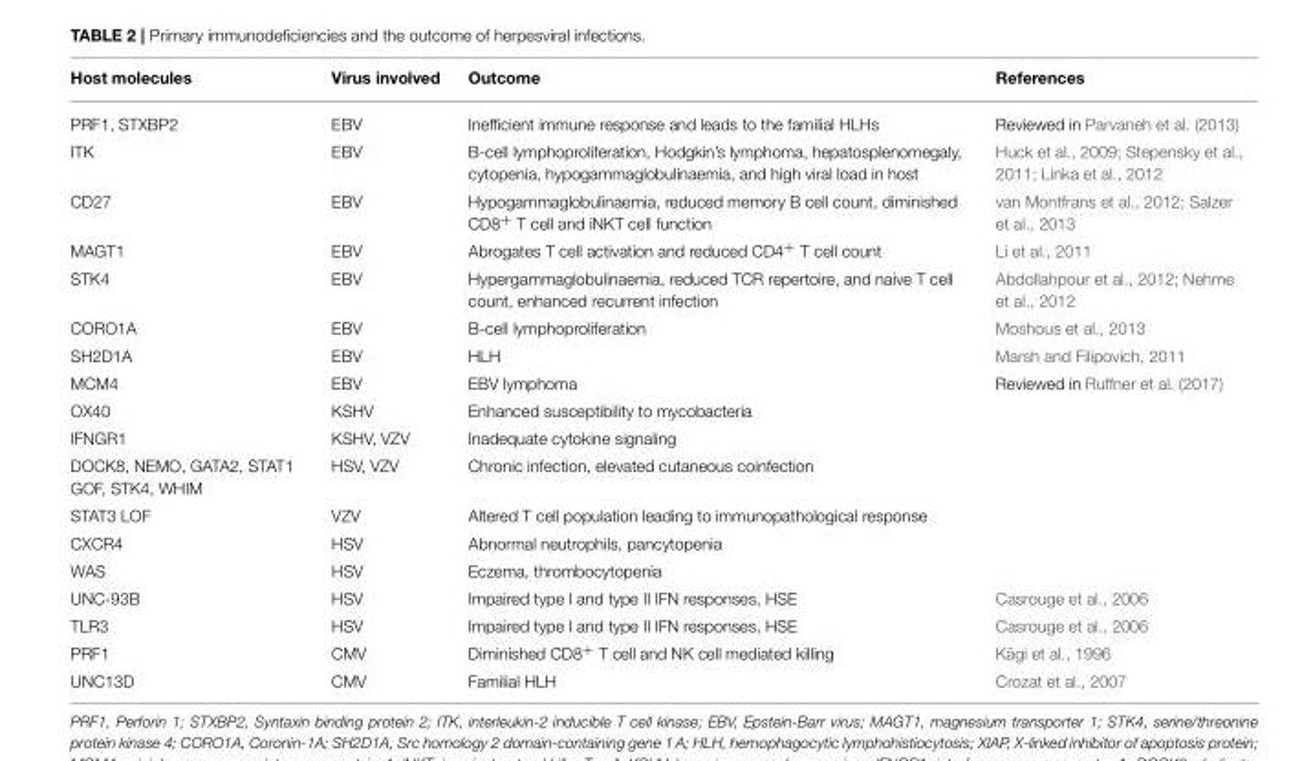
<table><thead><tr><td>Host molecules</td><td>Virus involved</td><td>Outcome</td><td>References</td></tr></thead><tbody><tr><td>PRF1, STXBP2</td><td>EBV</td><td>Inefficient immune response and leads to the familial HLHs</td><td>Reviewed in Parvaneh et al. (2013)</td></tr><tr><td>ITK</td><td>EBV</td><td>B-cell lymphoproliferation, Hodgkin’s lymphoma, hepatosplenomegaly, cytopenia, hypogammaglobulinaemia, and high viral load in host</td><td>Huck et al., 2009; Stepensky et al., 2011; Linka et al., 2012</td></tr><tr><td>CD27</td><td>EBV</td><td>Hypogammaglobulinaemia, reduced memory B cell count, diminished CD8<sup>+</sup> T cell and iNKT cell function</td><td>van Montfrans et al., 2012; Salzer et al., 2013</td></tr><tr><td>MAGT1</td><td>EBV</td><td>Abrogates T cell activation and reduced CD4<sup>+</sup> T cell count</td><td>Li et al., 2011</td></tr><tr><td>STK4</td><td>EBV</td><td>Hypergammaglobulinaemia, reduced TCR repertoire, and naive T cell count, enhanced recurrent infection</td><td>Abdollahpour et al., 2012; Nehme et al., 2012</td></tr><tr><td>CORO1A</td><td>EBV</td><td>B-cell lymphoproliferation</td><td>Moshous et al., 2013</td></tr><tr><td>SH2D1A</td><td>EBV</td><td>HLH</td><td>Marsh and Filipovich, 2011</td></tr><tr><td>MCM4</td><td>EBV</td><td>EBV lymphoma</td><td>Reviewed in Ruffner et al. (2017)</td></tr><tr><td>OX40</td><td>KSHV</td><td>Enhanced susceptibility to mycobacteria</td><td></td></tr><tr><td>IFNGR1</td><td>KSHV, VZV</td><td>Inadequate cytokine signaling</td><td></td></tr><tr><td>DOCK8, NEMO, GATA2, STAT1 GOF, STK4, WHIM</td><td>HSV, VZV</td><td>Chronic infection, elevated cutaneous coinfection</td><td></td></tr><tr><td>STAT3 LOF</td><td>VZV</td><td>Altered T cell population leading to immunopathological response</td><td></td></tr><tr><td>CXCR4</td><td>HSV</td><td>Abnormal neutrophils, pancytopenia</td><td></td></tr><tr><td>WAS</td><td>HSV</td><td>Eczema, thrombocytopenia</td><td></td></tr><tr><td>UNC-93B</td><td>HSV</td><td>Impaired type I and type II IFN responses, HSE</td><td>Casrouge et al., 2006</td></tr><tr><td>TLR3</td><td>HSV</td><td>Impaired type I and type II IFN responses, HSE</td><td>Casrouge et al., 2006</td></tr><tr><td>PRF1</td><td>CMV</td><td>Diminished CD8<sup>+</sup> T cell and NK cell mediated killing</td><td>Kägi et al., 1996</td></tr><tr><td>UNC13D</td><td>CMV</td><td>Familial HLH</td><td>Crozat et al., 2007</td></tr></tbody></table>